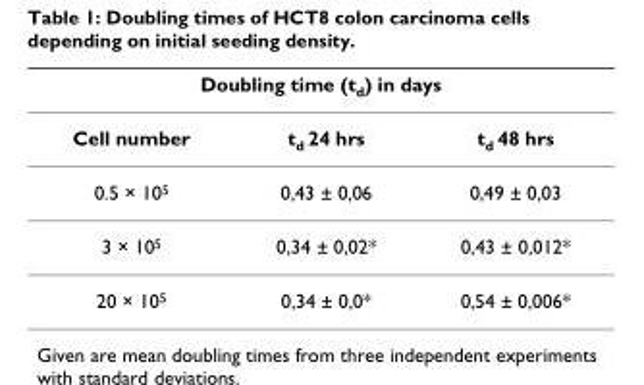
<table><thead><tr><td colspan="3">Doubling time (t<sub>d</sub>) in days</td></tr><tr><td>Cell number</td><td>t<sub>d</sub> 24 hrs</td><td>t<sub>d</sub> 48 hrs</td></tr></thead><tbody><tr><td>0.5 × 10<sup>5</sup></td><td>0,43 ± 0,06</td><td>0,49 ± 0,03</td></tr><tr><td>3 × 10<sup>5</sup></td><td>0,34 ± 0,02*</td><td>0,43 ± 0,012*</td></tr><tr><td>20 × 10<sup>5</sup></td><td>0,34 ± 0,0*</td><td>0,54 ± 0,006*</td></tr></tbody></table>